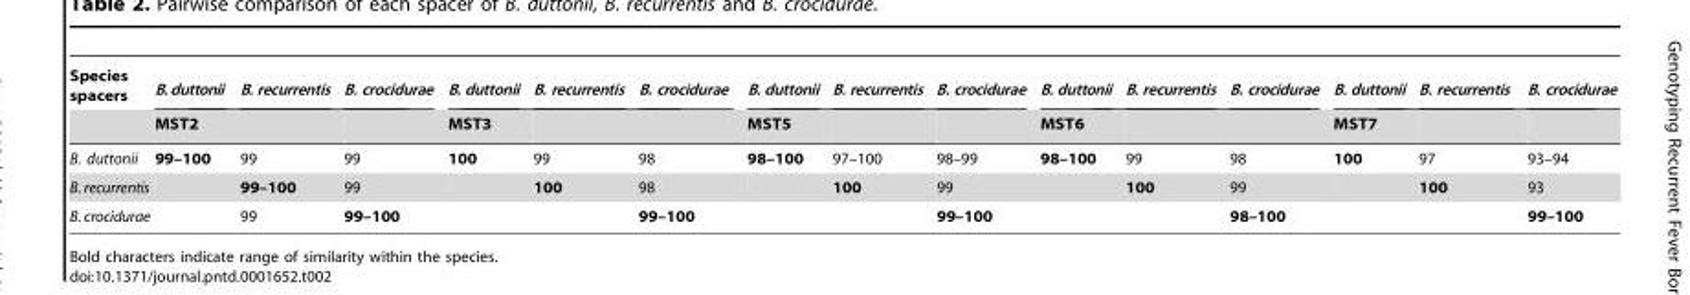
<table><thead><tr><td rowspan="2">Species spacers</td><td rowspan="2">B. duttonii MST2</td><td rowspan="2">B. recurrentis</td><td rowspan="2">B. crocidurae</td><td rowspan="2">B. duttonii MST3</td><td rowspan="2">B. recurrentis</td><td rowspan="2">B. crocidurae</td><td rowspan="2">B. duttonii MST5</td><td rowspan="2">B. recurrentis</td><td rowspan="2">B. crocidurae</td><td rowspan="2">B. duttonii MST6</td><td rowspan="2">B. recurrentis</td><td rowspan="2">B. crocidurae</td><td rowspan="2">B. duttonii MST7</td><td rowspan="2">B. recurrentis</td><td rowspan="2">B. crocidurae</td></tr><tr></tr></thead><tbody><tr><td>B. duttonii</td><td>99–100</td><td>99</td><td>99</td><td>100</td><td>99</td><td>98</td><td>98–100</td><td>97–100</td><td>98–99</td><td>98–100</td><td>99</td><td>98</td><td>100</td><td>97</td><td>93–94</td></tr><tr><td>B. recurrentis</td><td></td><td>99–100</td><td>99</td><td></td><td>100</td><td>98</td><td></td><td>100</td><td>99</td><td></td><td>100</td><td>99</td><td></td><td>100</td><td>93</td></tr><tr><td>B. crocidurae</td><td></td><td>99</td><td>99–100</td><td></td><td></td><td>99–100</td><td></td><td></td><td>99–100</td><td></td><td></td><td>98–100</td><td></td><td></td><td>99–100</td></tr></tbody></table>